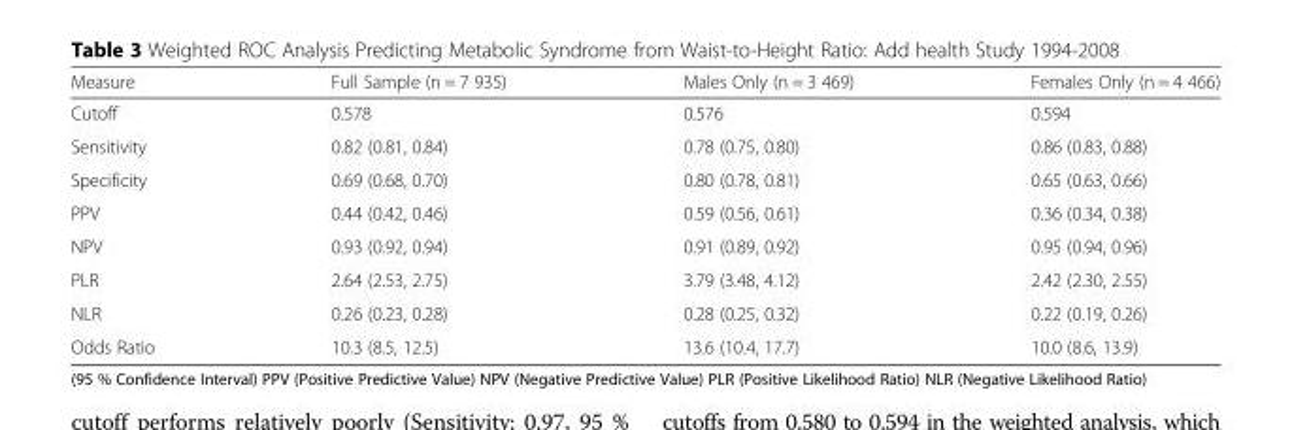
<table><thead><tr><td>Measure</td><td>Full Sample (n = 7 935)</td><td>Males Only (n = 3 469)</td><td>Females Only (n = 4 466)</td></tr></thead><tbody><tr><td>Cutoff</td><td>0.578</td><td>0.576</td><td>0.594</td></tr><tr><td>Sensitivity</td><td>0.82 (0.81, 0.84)</td><td>0.78 (0.75, 0.80)</td><td>0.86 (0.83, 0.88)</td></tr><tr><td>Specificity</td><td>0.69 (0.68, 0.70)</td><td>0.80 (0.78, 0.81)</td><td>0.65 (0.63, 0.66)</td></tr><tr><td>PPV</td><td>0.44 (0.42, 0.46)</td><td>0.59 (0.56, 0.61)</td><td>0.36 (0.34, 0.38)</td></tr><tr><td>NPV</td><td>0.93 (0.92, 0.94)</td><td>0.91 (0.89, 0.92)</td><td>0.95 (0.94, 0.96)</td></tr><tr><td>PLR</td><td>2.64 (2.53, 2.75)</td><td>3.79 (3.48, 4.12)</td><td>2.42 (2.30, 2.55)</td></tr><tr><td>NLR</td><td>0.26 (0.23, 0.28)</td><td>0.28 (0.25, 0.32)</td><td>0.22 (0.19, 0.26)</td></tr><tr><td>Odds Ratio</td><td>10.3 (8.5, 12.5)</td><td>13.6 (10.4, 17.7)</td><td>10.0 (8.6, 13.9)</td></tr></tbody></table>